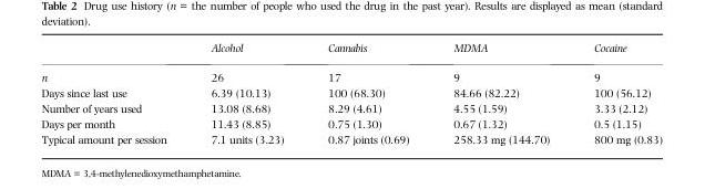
<table><thead><tr><td></td><td>Alcohol</td><td>Cannabis</td><td>MDMA</td><td>Cocaine</td></tr></thead><tbody><tr><td>n</td><td>26</td><td>17</td><td>9</td><td>9</td></tr><tr><td>Days since last use</td><td>6.39 (10.13)</td><td>100 (68.30)</td><td>84.66 (82.22)</td><td>100 (56.12)</td></tr><tr><td>Number of years used</td><td>13.08 (8.68)</td><td>8.29 (4.61)</td><td>4.55 (1.59)</td><td>3.33 (2.12)</td></tr><tr><td>Days per month</td><td>11.43 (8.85)</td><td>0.75 (1.30)</td><td>0.67 (1.32)</td><td>0.5 (1.15)</td></tr><tr><td>Typical amount per session</td><td>7.1 units (3.23)</td><td>0.87 joints (0.69)</td><td>258.33 mg (144.70)</td><td>800 mg (0.83)</td></tr></tbody></table>